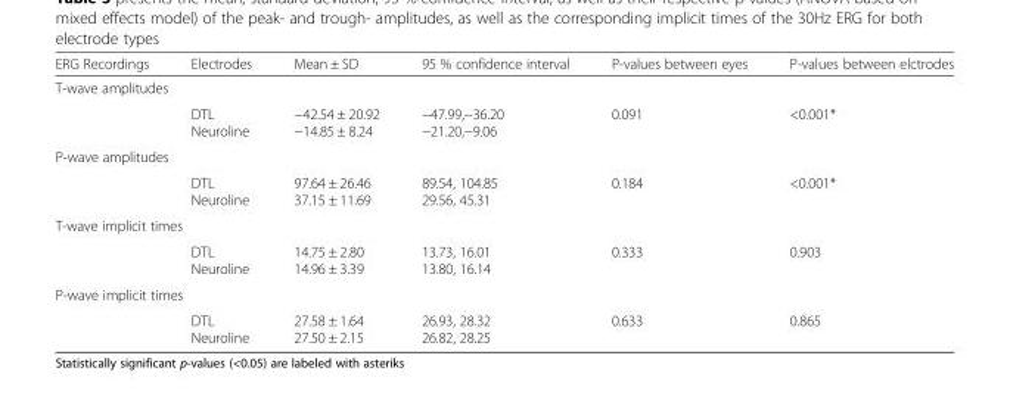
<table><thead><tr><td>ERG Recordings</td><td>Electrodes</td><td>Mean ± SD</td><td>95 % confidence interval</td><td>P-values between eyes</td><td>P-values between elctrodes</td></tr></thead><tbody><tr><td colspan="6">T-wave amplitudes</td></tr><tr><td></td><td>DTL Neuroline</td><td>−42.54 ± 20.92 −14.85 ± 8.24</td><td>−47.99,−36.20 −21.20,−9.06</td><td>0.091</td><td>&lt;0.001*</td></tr><tr><td colspan="6">P-wave amplitudes</td></tr><tr><td></td><td>DTL Neuroline</td><td>97.64 ± 26.46 37.15 ± 11.69</td><td>89.54, 104.85 29.56, 45.31</td><td>0.184</td><td>&lt;0.001*</td></tr><tr><td colspan="6">T-wave implicit times</td></tr><tr><td></td><td>DTL Neuroline</td><td>14.75 ± 2.80 14.96 ± 3.39</td><td>13.73, 16.01 13.80, 16.14</td><td>0.333</td><td>0.903</td></tr><tr><td colspan="6">P-wave implicit times</td></tr><tr><td></td><td>DTL Neuroline</td><td>27.58 ± 1.64 27.50 ± 2.15</td><td>26.93, 28.32 26.82, 28.25</td><td>0.633</td><td>0.865</td></tr></tbody></table>